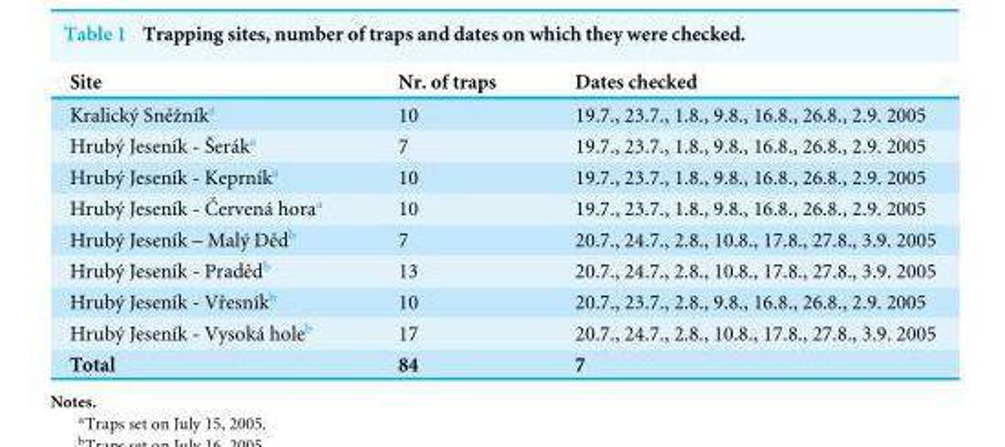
<table><thead><tr><td>Site</td><td>Nr. of traps</td><td>Dates checked</td></tr></thead><tbody><tr><td>Kralický Sněžník<sup>a</sup></td><td>10</td><td>19.7., 23.7., 1.8., 9.8., 16.8., 26.8., 2.9. 2005</td></tr><tr><td>Hrubý Jeseník - Šerák<sup>a</sup></td><td>7</td><td>19.7., 23.7., 1.8., 9.8., 16.8., 26.8., 2.9. 2005</td></tr><tr><td>Hrubý Jeseník - Keprník<sup>a</sup></td><td>10</td><td>19.7., 23.7., 1.8., 9.8., 16.8., 26.8., 2.9. 2005</td></tr><tr><td>Hrubý Jeseník - Červená hora<sup>a</sup></td><td>10</td><td>19.7., 23.7., 1.8., 9.8., 16.8., 26.8., 2.9. 2005</td></tr><tr><td>Hrubý Jeseník – Malý Děd<sup>b</sup></td><td>7</td><td>20.7., 24.7., 2.8., 10.8., 17.8., 27.8., 3.9. 2005</td></tr><tr><td>Hrubý Jeseník - Praděd<sup>b</sup></td><td>13</td><td>20.7., 24.7., 2.8., 10.8., 17.8., 27.8., 3.9. 2005</td></tr><tr><td>Hrubý Jeseník - Vřesník<sup>b</sup></td><td>10</td><td>20.7., 23.7., 2.8., 9.8., 16.8., 26.8., 2.9. 2005</td></tr><tr><td>Hrubý Jeseník - Vysoká hole<sup>b</sup></td><td>17</td><td>20.7., 24.7., 2.8., 10.8., 17.8., 27.8., 3.9. 2005</td></tr><tr><td>Total</td><td>84</td><td>7</td></tr></tbody></table>